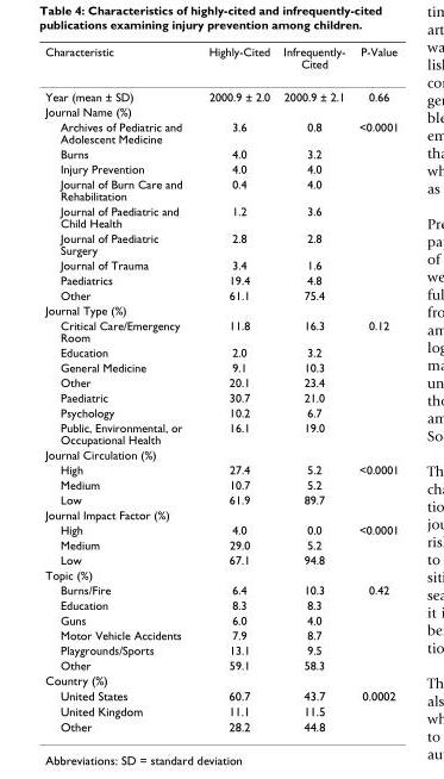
<table><thead><tr><td>Characteristic</td><td>Highly-Cited</td><td>Infrequently- Cited</td><td>P-Value</td></tr></thead><tbody><tr><td>Year (mean ± SD)</td><td>2000.9 ± 2.0</td><td>2000.9 ± 2.1</td><td>0.66</td></tr><tr><td colspan="4">Journal Name (%)</td></tr><tr><td>Archives of Pediatric and Adolescent Medicine</td><td>3.6</td><td>0.8</td><td>&lt;0.0001</td></tr><tr><td>Burns</td><td>4.0</td><td>3.2</td><td></td></tr><tr><td>Injury Prevention</td><td>4.0</td><td>4.0</td><td></td></tr><tr><td>Journal of Burn Care and Rehabilitation</td><td>0.4</td><td>4.0</td><td></td></tr><tr><td>Journal of Paediatric and Child Health</td><td>1.2</td><td>3.6</td><td></td></tr><tr><td>Journal of Paediatric Surgery</td><td>2.8</td><td>2.8</td><td></td></tr><tr><td>Journal of Trauma</td><td>3.4</td><td>1.6</td><td></td></tr><tr><td>Paediatrics</td><td>19.4</td><td>4.8</td><td></td></tr><tr><td>Other</td><td>61.1</td><td>75.4</td><td></td></tr><tr><td colspan="4">Journal Type (%)</td></tr><tr><td>Critical Care/Emergency Room</td><td>11.8</td><td>16.3</td><td>0.12</td></tr><tr><td>Education</td><td>2.0</td><td>3.2</td><td></td></tr><tr><td>General Medicine</td><td>9.1</td><td>10.3</td><td></td></tr><tr><td>Other</td><td>20.1</td><td>23.4</td><td></td></tr><tr><td>Paediatric</td><td>30.7</td><td>21.0</td><td></td></tr><tr><td>Psychology</td><td>10.2</td><td>6.7</td><td></td></tr><tr><td>Public, Environmental, or Occupational Health</td><td>16.1</td><td>19.0</td><td></td></tr><tr><td colspan="4">Journal Circulation (%)</td></tr><tr><td>High</td><td>27.4</td><td>5.2</td><td>&lt;0.0001</td></tr><tr><td>Medium</td><td>10.7</td><td>5.2</td><td></td></tr><tr><td>Low</td><td>61.9</td><td>89.7</td><td></td></tr><tr><td colspan="4">Journal Impact Factor (%)</td></tr><tr><td>High</td><td>4.0</td><td>0.0</td><td>&lt;0.0001</td></tr><tr><td>Medium</td><td>29.0</td><td>5.2</td><td></td></tr><tr><td>Low</td><td>67.1</td><td>94.8</td><td></td></tr><tr><td colspan="4">Topic (%)</td></tr><tr><td>Burns/Fire</td><td>6.4</td><td>10.3</td><td>0.42</td></tr><tr><td>Education</td><td>8.3</td><td>8.3</td><td></td></tr><tr><td>Guns</td><td>6.0</td><td>4.0</td><td></td></tr><tr><td>Motor Vehicle Accidents</td><td>7.9</td><td>8.7</td><td></td></tr><tr><td>Playgrounds/Sports</td><td>13.1</td><td>9.5</td><td></td></tr><tr><td>Other</td><td>59.1</td><td>58.3</td><td></td></tr><tr><td colspan="4">Country (%)</td></tr><tr><td>United States</td><td>60.7</td><td>43.7</td><td>0.0002</td></tr><tr><td>United Kingdom</td><td>11.1</td><td>11.5</td><td></td></tr><tr><td>Other</td><td>28.2</td><td>44.8</td><td></td></tr></tbody></table>